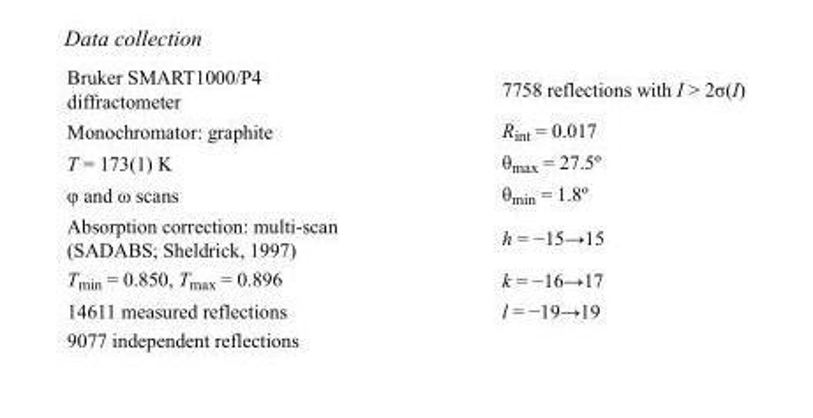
<table><tbody><tr><td>Bruker SMART1000/P4 diffractometer</td><td>7758 reflections with I &gt; 2σ(I)</td></tr><tr><td>Monochromator: graphite</td><td>R<sub>int</sub> = 0.017</td></tr><tr><td>T = 173(1) K</td><td>θ<sub>max</sub> = 27.5º</td></tr><tr><td>φ and ω scans</td><td>θ<sub>min</sub> = 1.8º</td></tr><tr><td>Absorption correction: multi-scan (SADABS; Sheldrick, 1997)</td><td>h = −15→15</td></tr><tr><td>T<sub>min</sub> = 0.850, T<sub>max</sub> = 0.896</td><td>k = −16→17</td></tr><tr><td>14611 measured reflections</td><td>l = −19→19</td></tr><tr><td>9077 independent reflections</td><td></td></tr></tbody></table>